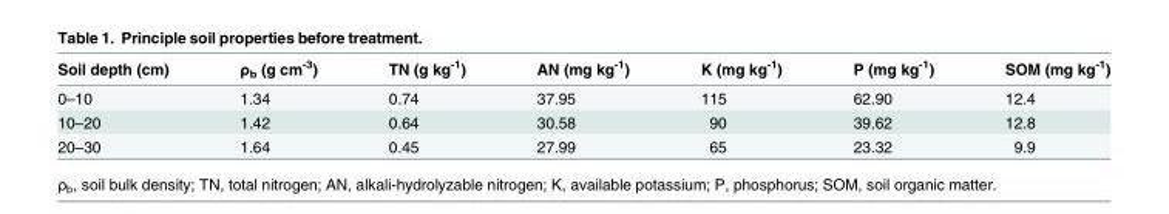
<table><thead><tr><td>Soil depth (cm)</td><td>ρ<sub>b</sub> (g cm<sup>-3</sup>)</td><td>TN (g kg<sup>-1</sup>)</td><td>AN (mg kg<sup>-1</sup>)</td><td>K (mg kg<sup>-1</sup>)</td><td>P (mg kg<sup>-1</sup>)</td><td>SOM (mg kg<sup>-1</sup>)</td></tr></thead><tbody><tr><td>0–10</td><td>1.34</td><td>0.74</td><td>37.95</td><td>115</td><td>62.90</td><td>12.4</td></tr><tr><td>10–20</td><td>1.42</td><td>0.64</td><td>30.58</td><td>90</td><td>39.62</td><td>12.8</td></tr><tr><td>20–30</td><td>1.64</td><td>0.45</td><td>27.99</td><td>65</td><td>23.32</td><td>9.9</td></tr></tbody></table>